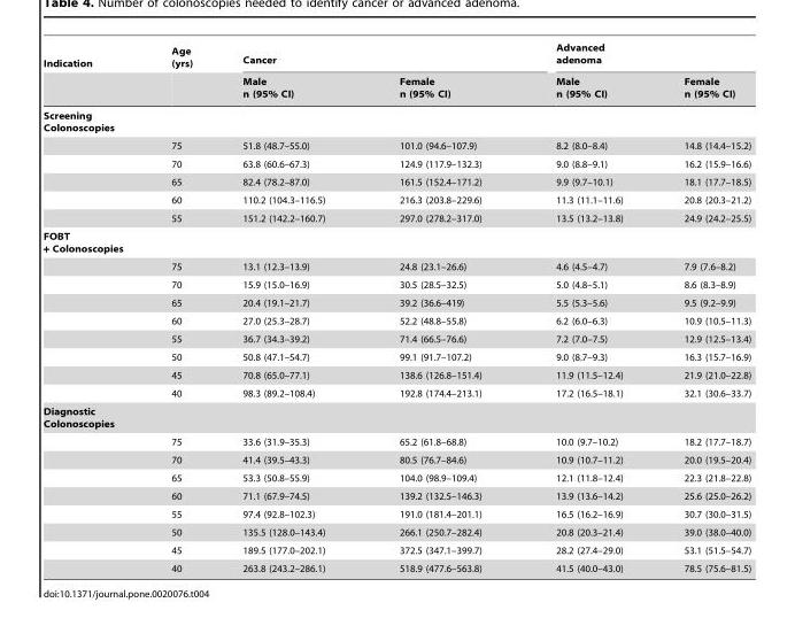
<table><thead><tr><td rowspan="2">Indication</td><td rowspan="2">Age (yrs)</td><td colspan="2">Cancer</td><td colspan="2">Advanced adenoma</td></tr><tr><td>Male n (95% CI)</td><td>Female n (95% CI)</td><td>Male n (95% CI)</td><td>Female n (95% CI)</td></tr></thead><tbody><tr><td colspan="6">Screening Colonoscopies</td></tr><tr><td></td><td>75</td><td>51.8 (48.7–55.0)</td><td>101.0 (94.6–107.9)</td><td>8.2 (8.0–8.4)</td><td>14.8 (14.4–15.2)</td></tr><tr><td></td><td>70</td><td>63.8 (60.6–67.3)</td><td>124.9 (117.9–132.3)</td><td>9.0 (8.8–9.1)</td><td>16.2 (15.9–16.6)</td></tr><tr><td></td><td>65</td><td>82.4 (78.2–87.0)</td><td>161.5 (152.4–171.2)</td><td>9.9 (9.7–10.1)</td><td>18.1 (17.7–18.5)</td></tr><tr><td></td><td>60</td><td>110.2 (104.3–116.5)</td><td>216.3 (203.8–229.6)</td><td>11.3 (11.1–11.6)</td><td>20.8 (20.3–21.2)</td></tr><tr><td></td><td>55</td><td>151.2 (142.2–160.7)</td><td>297.0 (278.2–317.0)</td><td>13.5 (13.2–13.8)</td><td>24.9 (24.2–25.5)</td></tr><tr><td colspan="6">FOBT + Colonoscopies</td></tr><tr><td></td><td>75</td><td>13.1 (12.3–13.9)</td><td>24.8 (23.1–26.6)</td><td>4.6 (4.5–4.7)</td><td>7.9 (7.6–8.2)</td></tr><tr><td></td><td>70</td><td>15.9 (15.0–16.9)</td><td>30.5 (28.5–32.5)</td><td>5.0 (4.8–5.1)</td><td>8.6 (8.3–8.9)</td></tr><tr><td></td><td>65</td><td>20.4 (19.1–21.7)</td><td>39.2 (36.6–419)</td><td>5.5 (5.3–5.6)</td><td>9.5 (9.2–9.9)</td></tr><tr><td></td><td>60</td><td>27.0 (25.3–28.7)</td><td>52.2 (48.8–55.8)</td><td>6.2 (6.0–6.3)</td><td>10.9 (10.5–11.3)</td></tr><tr><td></td><td>55</td><td>36.7 (34.3–39.2)</td><td>71.4 (66.5–76.6)</td><td>7.2 (7.0–7.5)</td><td>12.9 (12.5–13.4)</td></tr><tr><td></td><td>50</td><td>50.8 (47.1–54.7)</td><td>99.1 (91.7–107.2)</td><td>9.0 (8.7–9.3)</td><td>16.3 (15.7–16.9)</td></tr><tr><td></td><td>45</td><td>70.8 (65.0–77.1)</td><td>138.6 (126.8–151.4)</td><td>11.9 (11.5–12.4)</td><td>21.9 (21.0–22.8)</td></tr><tr><td></td><td>40</td><td>98.3 (89.2–108.4)</td><td>192.8 (174.4–213.1)</td><td>17.2 (16.5–18.1)</td><td>32.1 (30.6–33.7)</td></tr><tr><td colspan="6">Diagnostic Colonoscopies</td></tr><tr><td></td><td>75</td><td>33.6 (31.9–35.3)</td><td>65.2 (61.8–68.8)</td><td>10.0 (9.7–10.2)</td><td>18.2 (17.7–18.7)</td></tr><tr><td></td><td>70</td><td>41.4 (39.5–43.3)</td><td>80.5 (76.7–84.6)</td><td>10.9 (10.7–11.2)</td><td>20.0 (19.5–20.4)</td></tr><tr><td></td><td>65</td><td>53.3 (50.8–55.9)</td><td>104.0 (98.9–109.4)</td><td>12.1 (11.8–12.4)</td><td>22.3 (21.8–22.8)</td></tr><tr><td></td><td>60</td><td>71.1 (67.9–74.5)</td><td>139.2 (132.5–146.3)</td><td>13.9 (13.6–14.2)</td><td>25.6 (25.0–26.2)</td></tr><tr><td></td><td>55</td><td>97.4 (92.8–102.3)</td><td>191.0 (181.4–201.1)</td><td>16.5 (16.2–16.9)</td><td>30.7 (30.0–31.5)</td></tr><tr><td></td><td>50</td><td>135.5 (128.0–143.4)</td><td>266.1 (250.7–282.4)</td><td>20.8 (20.3–21.4)</td><td>39.0 (38.0–40.0)</td></tr><tr><td></td><td>45</td><td>189.5 (177.0–202.1)</td><td>372.5 (347.1–399.7)</td><td>28.2 (27.4–29.0)</td><td>53.1 (51.5–54.7)</td></tr><tr><td></td><td>40</td><td>263.8 (243.2–286.1)</td><td>518.9 (477.6–563.8)</td><td>41.5 (40.0–43.0)</td><td>78.5 (75.6–81.5)</td></tr></tbody></table>